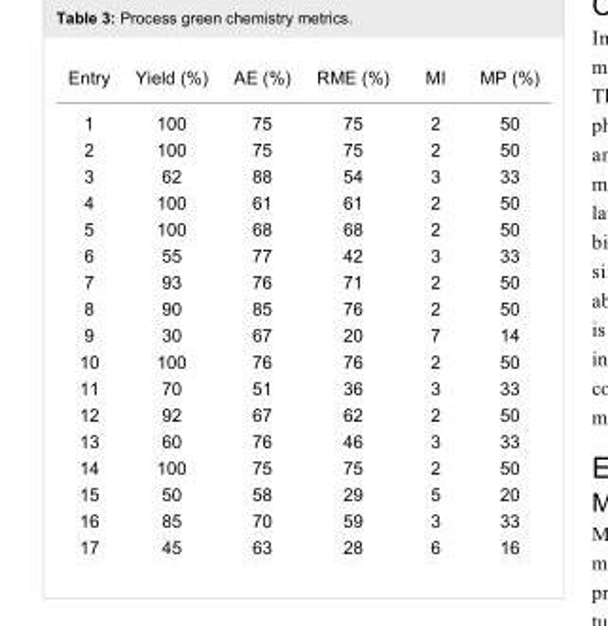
<table><tbody><tr><td>Entry</td><td>Yield (%)</td><td>AE (%)</td><td>RME (%)</td><td>MI</td><td>MP (%)</td></tr><tr><td>1</td><td>100</td><td>75</td><td>75</td><td>2</td><td>50</td></tr><tr><td>2</td><td>100</td><td>75</td><td>75</td><td>2</td><td>50</td></tr><tr><td>3</td><td>62</td><td>88</td><td>54</td><td>3</td><td>33</td></tr><tr><td>4</td><td>100</td><td>61</td><td>61</td><td>2</td><td>50</td></tr><tr><td>5</td><td>100</td><td>68</td><td>68</td><td>2</td><td>50</td></tr><tr><td>6</td><td>55</td><td>77</td><td>42</td><td>3</td><td>33</td></tr><tr><td>7</td><td>93</td><td>76</td><td>71</td><td>2</td><td>50</td></tr><tr><td>8</td><td>90</td><td>85</td><td>76</td><td>2</td><td>50</td></tr><tr><td>9</td><td>30</td><td>67</td><td>20</td><td>7</td><td>14</td></tr><tr><td>10</td><td>100</td><td>76</td><td>76</td><td>2</td><td>50</td></tr><tr><td>11</td><td>70</td><td>51</td><td>36</td><td>3</td><td>33</td></tr><tr><td>12</td><td>92</td><td>67</td><td>62</td><td>2</td><td>50</td></tr><tr><td>13</td><td>60</td><td>76</td><td>46</td><td>3</td><td>33</td></tr><tr><td>14</td><td>100</td><td>75</td><td>75</td><td>2</td><td>50</td></tr><tr><td>15</td><td>50</td><td>58</td><td>29</td><td>5</td><td>20</td></tr><tr><td>16</td><td>85</td><td>70</td><td>59</td><td>3</td><td>33</td></tr><tr><td>17</td><td>45</td><td>63</td><td>28</td><td>6</td><td>16</td></tr></tbody></table>